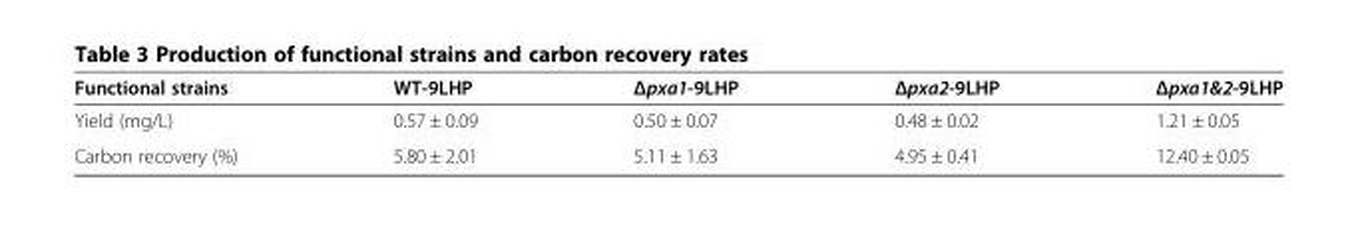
<table><thead><tr><td>Functional strains</td><td>WT-9LHP</td><td>Δpxa1-9LHP</td><td>Δpxa2-9LHP</td><td>Δpxa1&amp;2-9LHP</td></tr></thead><tbody><tr><td>Yield (mg/L)</td><td>0.57 ± 0.09</td><td>0.50 ± 0.07</td><td>0.48 ± 0.02</td><td>1.21 ± 0.05</td></tr><tr><td>Carbon recovery (%)</td><td>5.80 ± 2.01</td><td>5.11 ± 1.63</td><td>4.95 ± 0.41</td><td>12.40 ± 0.05</td></tr></tbody></table>